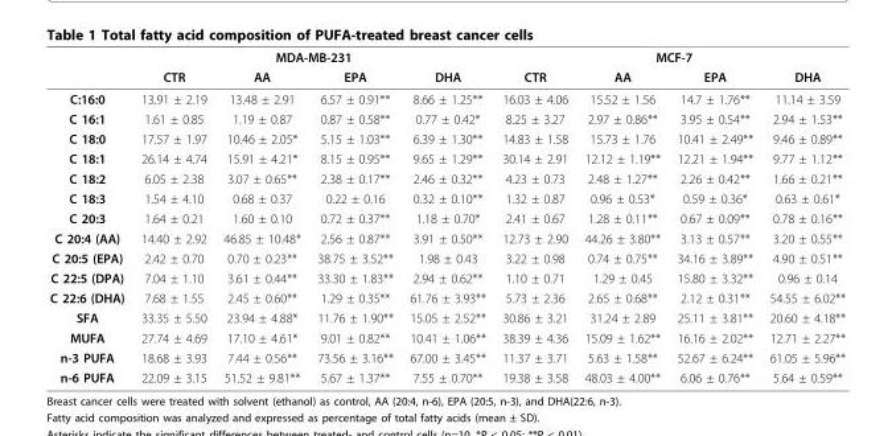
<table><thead><tr><td rowspan="2"></td><td colspan="4">MDA-MB-231</td><td colspan="4">MCF-7</td></tr><tr><td>CTR</td><td>AA</td><td>EPA</td><td>DHA</td><td>CTR</td><td>AA</td><td>EPA</td><td>DHA</td></tr></thead><tbody><tr><td>C:16:0</td><td>13.91 ± 2.19</td><td>13.48 ± 2.91</td><td>6.57 ± 0.91**</td><td>8.66 ± 1.25**</td><td>16.03 ± 4.06</td><td>15.52 ± 1.56</td><td>14.7 ± 1.76**</td><td>11.14 ± 3.59</td></tr><tr><td>C 16:1</td><td>1.61 ± 0.85</td><td>1.19 ± 0.87</td><td>0.87 ± 0.58**</td><td>0.77 ± 0.42*</td><td>8.25 ± 3.27</td><td>2.97 ± 0.86**</td><td>3.95 ± 0.54**</td><td>2.94 ± 1.53**</td></tr><tr><td>C 18:0</td><td>17.57 ± 1.97</td><td>10.46 ± 2.05*</td><td>5.15 ± 1.03**</td><td>6.39 ± 1.30**</td><td>14.83 ± 1.58</td><td>15.73 ± 1.76</td><td>10.41 ± 2.49**</td><td>9.46 ± 0.89**</td></tr><tr><td>C 18:1</td><td>26.14 ± 4.74</td><td>15.91 ± 4.21*</td><td>8.15 ± 0.95**</td><td>9.65 ± 1.29**</td><td>30.14 ± 2.91</td><td>12.12 ± 1.19**</td><td>12.21 ± 1.94**</td><td>9.77 ± 1.12**</td></tr><tr><td>C 18:2</td><td>6.05 ± 2.38</td><td>3.07 ± 0.65**</td><td>2.38 ± 0.17**</td><td>2.46 ± 0.32**</td><td>4.23 ± 0.73</td><td>2.48 ± 1.27**</td><td>2.26 ± 0.42**</td><td>1.66 ± 0.21**</td></tr><tr><td>C 18:3</td><td>1.54 ± 4.10</td><td>0.68 ± 0.37</td><td>0.22 ± 0.16</td><td>0.32 ± 0.10**</td><td>1.32 ± 0.87</td><td>0.96 ± 0.53*</td><td>0.59 ± 0.36*</td><td>0.63 ± 0.61*</td></tr><tr><td>C 20:3</td><td>1.64 ± 0.21</td><td>1.60 ± 0.10</td><td>0.72 ± 0.37**</td><td>1.18 ± 0.70*</td><td>2.41 ± 0.67</td><td>1.28 ± 0.11**</td><td>0.67 ± 0.09**</td><td>0.78 ± 0.16**</td></tr><tr><td>C 20:4 (AA)</td><td>14.40 ± 2.92</td><td>46.85 ± 10.48*</td><td>2.56 ± 0.87**</td><td>3.91 ± 0.50**</td><td>12.73 ± 2.90</td><td>44.26 ± 3.80**</td><td>3.13 ± 0.57**</td><td>3.20 ± 0.55**</td></tr><tr><td>C 20:5 (EPA)</td><td>2.42 ± 0.70</td><td>0.70 ± 0.23**</td><td>38.75 ± 3.52**</td><td>1.98 ± 0.43</td><td>3.22 ± 0.98</td><td>0.74 ± 0.75**</td><td>34.16 ± 3.89**</td><td>4.90 ± 0.51**</td></tr><tr><td>C 22:5 (DPA)</td><td>7.04 ± 1.10</td><td>3.61 ± 0.44**</td><td>33.30 ± 1.83**</td><td>2.94 ± 0.62**</td><td>1.10 ± 0.71</td><td>1.29 ± 0.45</td><td>15.80 ± 3.32**</td><td>0.96 ± 0.14</td></tr><tr><td>C 22:6 (DHA)</td><td>7.68 ± 1.55</td><td>2.45 ± 0.60**</td><td>1.29 ± 0.35**</td><td>61.76 ± 3.93**</td><td>5.73 ± 2.36</td><td>2.65 ± 0.68**</td><td>2.12 ± 0.31**</td><td>54.55 ± 6.02**</td></tr><tr><td>SFA</td><td>33.35 ± 5.50</td><td>23.94 ± 4.88*</td><td>11.76 ± 1.90**</td><td>15.05 ± 2.52**</td><td>30.86 ± 3.21</td><td>31.24 ± 2.89</td><td>25.11 ± 3.81**</td><td>20.60 ± 4.18**</td></tr><tr><td>MUFA</td><td>27.74 ± 4.69</td><td>17.10 ± 4.61*</td><td>9.01 ± 0.82**</td><td>10.41 ± 1.06**</td><td>38.39 ± 4.36</td><td>15.09 ± 1.62**</td><td>16.16 ± 2.02**</td><td>12.71 ± 2.27**</td></tr><tr><td>n-3 PUFA</td><td>18.68 ± 3.93</td><td>7.44 ± 0.56**</td><td>73.56 ± 3.16**</td><td>67.00 ± 3.45**</td><td>11.37 ± 3.71</td><td>5.63 ± 1.58**</td><td>52.67 ± 6.24**</td><td>61.05 ± 5.96**</td></tr><tr><td>n-6 PUFA</td><td>22.09 ± 3.15</td><td>51.52 ± 9.81**</td><td>5.67 ± 1.37**</td><td>7.55 ± 0.70**</td><td>19.38 ± 3.58</td><td>48.03 ± 4.00**</td><td>6.06 ± 0.76**</td><td>5.64 ± 0.59**</td></tr></tbody></table>